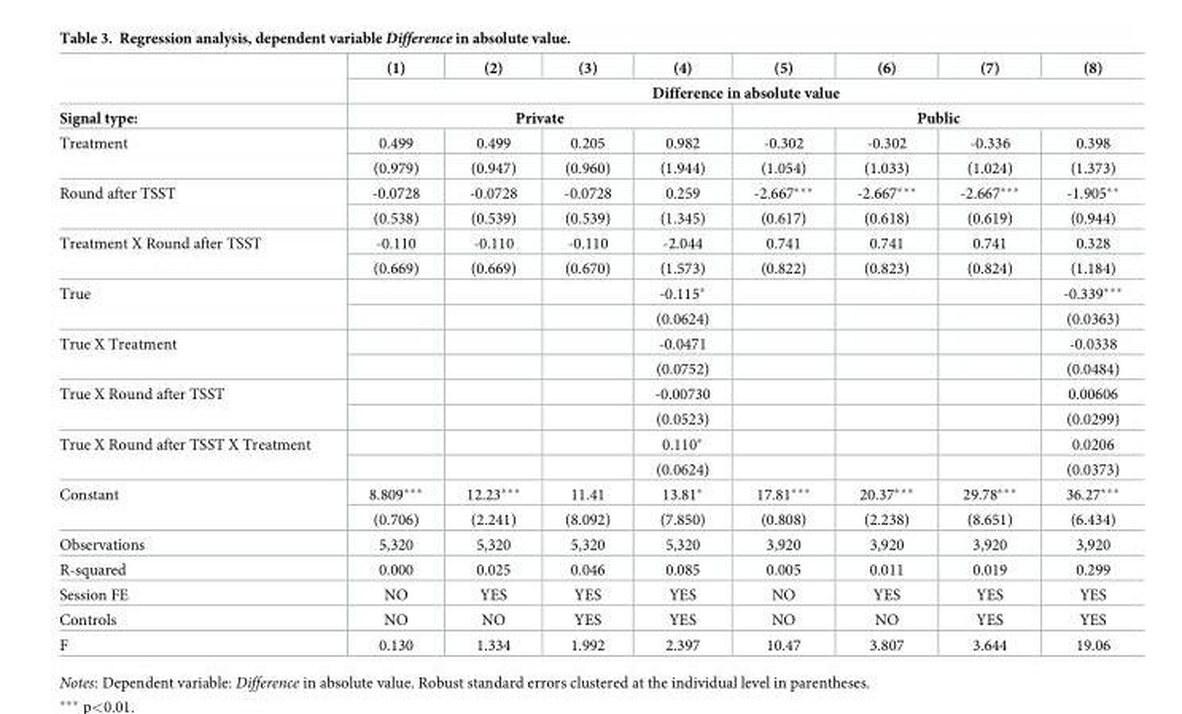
<table><thead><tr><td rowspan="3">Signal type:</td><td>(1)</td><td>(2)</td><td>(3)</td><td>(4)</td><td>(5)</td><td>(6)</td><td>(7)</td><td>(8)</td></tr><tr><td colspan="8">Difference in absolute value</td></tr><tr><td colspan="4">Private</td><td colspan="4">Public</td></tr></thead><tbody><tr><td rowspan="2">Treatment</td><td>0.499</td><td>0.499</td><td>0.205</td><td>0.982</td><td>-0.302</td><td>-0.302</td><td>-0.336</td><td>0.398</td></tr><tr><td>(0.979)</td><td>(0.947)</td><td>(0.960)</td><td>(1.944)</td><td>(1.054)</td><td>(1.033)</td><td>(1.024)</td><td>(1.373)</td></tr><tr><td rowspan="2">Round after TSST</td><td>-0.0728</td><td>-0.0728</td><td>-0.0728</td><td>0.259</td><td>-2.667***</td><td>-2.667***</td><td>-2.667***</td><td>-1.905**</td></tr><tr><td>(0.538)</td><td>(0.539)</td><td>(0.539)</td><td>(1.345)</td><td>(0.617)</td><td>(0.618)</td><td>(0.619)</td><td>(0.944)</td></tr><tr><td rowspan="2">Treatment X Round after TSST</td><td>-0.110</td><td>-0.110</td><td>-0.110</td><td>-2.044</td><td>0.741</td><td>0.741</td><td>0.741</td><td>0.328</td></tr><tr><td>(0.669)</td><td>(0.669)</td><td>(0.670)</td><td>(1.573)</td><td>(0.822)</td><td>(0.823)</td><td>(0.824)</td><td>(1.184)</td></tr><tr><td rowspan="2">True</td><td></td><td></td><td></td><td>-0.115*</td><td></td><td></td><td></td><td>-0.339***</td></tr><tr><td></td><td></td><td></td><td>(0.0624)</td><td></td><td></td><td></td><td>(0.0363)</td></tr><tr><td rowspan="2">True X Treatment</td><td></td><td></td><td></td><td>-0.0471</td><td></td><td></td><td></td><td>-0.0338</td></tr><tr><td></td><td></td><td></td><td>(0.0752)</td><td></td><td></td><td></td><td>(0.0484)</td></tr><tr><td rowspan="2">True X Round after TSST</td><td></td><td></td><td></td><td>-0.00730</td><td></td><td></td><td></td><td>0.00606</td></tr><tr><td></td><td></td><td></td><td>(0.0523)</td><td></td><td></td><td></td><td>(0.0299)</td></tr><tr><td rowspan="2">True X Round after TSST X Treatment</td><td></td><td></td><td></td><td>0.110*</td><td></td><td></td><td></td><td>0.0206</td></tr><tr><td></td><td></td><td></td><td>(0.0624)</td><td></td><td></td><td></td><td>(0.0373)</td></tr><tr><td rowspan="2">Constant</td><td>8.809***</td><td>12.23***</td><td>11.41</td><td>13.81*</td><td>17.81***</td><td>20.37***</td><td>29.78***</td><td>36.27***</td></tr><tr><td>(0.706)</td><td>(2.241)</td><td>(8.092)</td><td>(7.850)</td><td>(0.808)</td><td>(2.238)</td><td>(8.651)</td><td>(6.434)</td></tr><tr><td>Observations</td><td>5,320</td><td>5,320</td><td>5,320</td><td>5,320</td><td>3,920</td><td>3,920</td><td>3,920</td><td>3,920</td></tr><tr><td>R-squared</td><td>0.000</td><td>0.025</td><td>0.046</td><td>0.085</td><td>0.005</td><td>0.011</td><td>0.019</td><td>0.299</td></tr><tr><td>Session FE</td><td>NO</td><td>YES</td><td>YES</td><td>YES</td><td>NO</td><td>YES</td><td>YES</td><td>YES</td></tr><tr><td>Controls</td><td>NO</td><td>NO</td><td>YES</td><td>YES</td><td>NO</td><td>NO</td><td>YES</td><td>YES</td></tr><tr><td>F</td><td>0.130</td><td>1.334</td><td>1.992</td><td>2.397</td><td>10.47</td><td>3.807</td><td>3.644</td><td>19.06</td></tr></tbody></table>